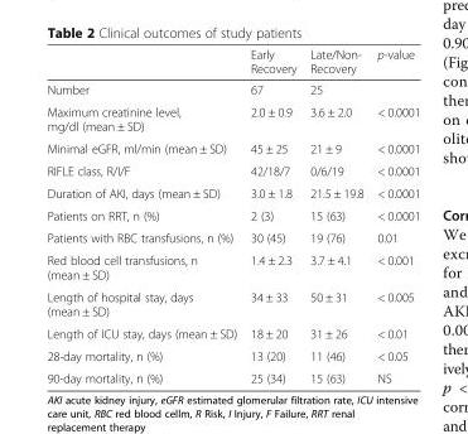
<table><thead><tr><td></td><td>Early Recovery</td><td>Late/Non- Recovery</td><td>p-value</td></tr></thead><tbody><tr><td>Number</td><td>67</td><td>25</td><td></td></tr><tr><td>Maximum creatinine level, mg/dl (mean ± SD)</td><td>2.0 ± 0.9</td><td>3.6 ± 2.0</td><td>&lt; 0.0001</td></tr><tr><td>Minimal eGFR, ml/min (mean ± SD)</td><td>45 ± 25</td><td>21 ± 9</td><td>&lt; 0.0001</td></tr><tr><td>RIFLE class, R/I/F</td><td>42/18/7</td><td>0/6/19</td><td>&lt; 0.0001</td></tr><tr><td>Duration of AKI, days (mean ± SD)</td><td>3.0 ± 1.8</td><td>21.5 ± 19.8</td><td>&lt; 0.0001</td></tr><tr><td>Patients on RRT, n (%)</td><td>2 (3)</td><td>15 (63)</td><td>&lt; 0.0001</td></tr><tr><td>Patients with RBC transfusions, n (%)</td><td>30 (45)</td><td>19 (76)</td><td>0.01</td></tr><tr><td>Red blood cell transfusions, n (mean ± SD)</td><td>1.4 ± 2.3</td><td>3.7 ± 4.1</td><td>&lt; 0.001</td></tr><tr><td>Length of hospital stay, days (mean ± SD)</td><td>34 ± 33</td><td>50 ± 31</td><td>&lt; 0.005</td></tr><tr><td>Length of ICU stay, days (mean ± SD)</td><td>18 ± 20</td><td>31 ± 26</td><td>&lt; 0.01</td></tr><tr><td>28-day mortality, n (%)</td><td>13 (20)</td><td>11 (46)</td><td>&lt; 0.05</td></tr><tr><td>90-day mortality, n (%)</td><td>25 (34)</td><td>15 (63)</td><td>NS</td></tr></tbody></table>